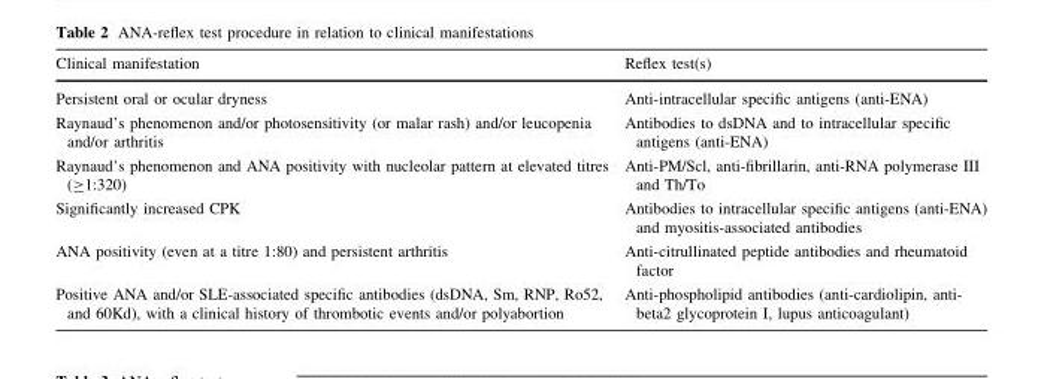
<table><thead><tr><td>Clinical manifestation</td><td>Reflex test(s)</td></tr></thead><tbody><tr><td>Persistent oral or ocular dryness</td><td>Anti-intracellular specific antigens (anti-ENA)</td></tr><tr><td>Raynaud’s phenomenon and/or photosensitivity (or malar rash) and/or leucopenia and/or arthritis</td><td>Antibodies to dsDNA and to intracellular specific antigens (anti-ENA)</td></tr><tr><td>Raynaud’s phenomenon and ANA positivity with nucleolar pattern at elevated titres (≥1:320)</td><td>Anti-PM/Scl, anti-fibrillarin, anti-RNA polymerase III and Th/To</td></tr><tr><td>Significantly increased CPK</td><td>Antibodies to intracellular specific antigens (anti-ENA) and myositis-associated antibodies</td></tr><tr><td>ANA positivity (even at a titre 1:80) and persistent arthritis</td><td>Anti-citrullinated peptide antibodies and rheumatoid factor</td></tr><tr><td>Positive ANA and/or SLE-associated specific antibodies (dsDNA, Sm, RNP, Ro52, and 60Kd), with a clinical history of thrombotic events and/or polyabortion</td><td>Anti-phospholipid antibodies (anti-cardiolipin, anti- beta2 glycoprotein I, lupus anticoagulant)</td></tr></tbody></table>